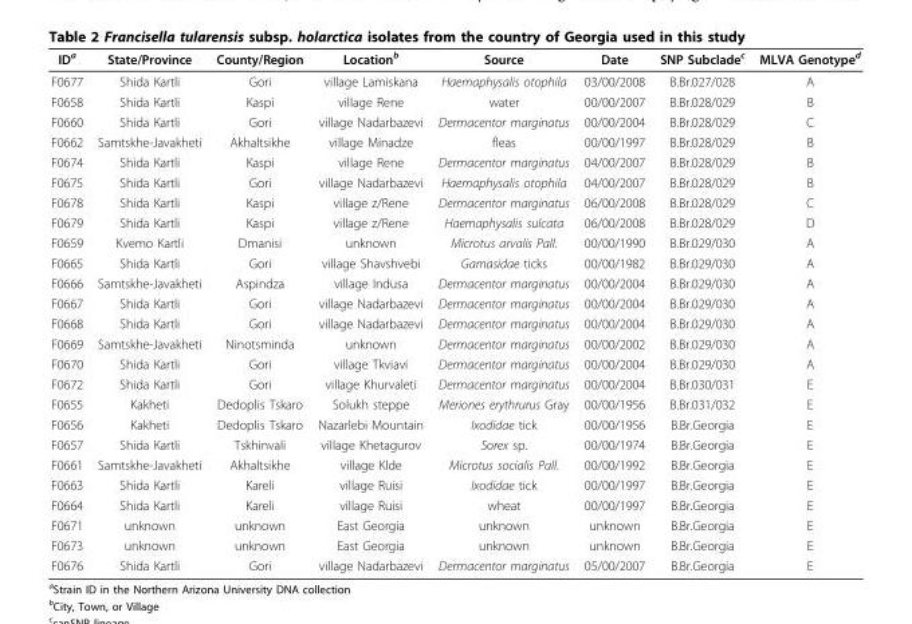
<table><thead><tr><td>ID<sup>a</sup></td><td>State/Province</td><td>County/Region</td><td>Location<sup>b</sup></td><td>Source</td><td>Date</td><td>SNP Subclade<sup>c</sup></td><td>MLVA Genotype<sup>d</sup></td></tr></thead><tbody><tr><td>F0677</td><td>Shida Kartli</td><td>Gori</td><td>village Lamiskana</td><td>Haemaphysalis otophila</td><td>03/00/2008</td><td>B.Br.027/028</td><td>A</td></tr><tr><td>F0658</td><td>Shida Kartli</td><td>Kaspi</td><td>village Rene</td><td>water</td><td>00/00/2007</td><td>B.Br.028/029</td><td>B</td></tr><tr><td>F0660</td><td>Shida Kartli</td><td>Gori</td><td>village Nadarbazevi</td><td>Dermacentor marginatus</td><td>00/00/2004</td><td>B.Br.028/029</td><td>C</td></tr><tr><td>F0662</td><td>Samtskhe-Javakheti</td><td>Akhaltsikhe</td><td>village Minadze</td><td>fleas</td><td>00/00/1997</td><td>B.Br.028/029</td><td>B</td></tr><tr><td>F0674</td><td>Shida Kartli</td><td>Kaspi</td><td>village Rene</td><td>Dermacentor marginatus</td><td>04/00/2007</td><td>B.Br.028/029</td><td>B</td></tr><tr><td>F0675</td><td>Shida Kartli</td><td>Gori</td><td>village Nadarbazevi</td><td>Haemaphysalis otophila</td><td>04/00/2007</td><td>B.Br.028/029</td><td>B</td></tr><tr><td>F0678</td><td>Shida Kartli</td><td>Kaspi</td><td>village z/Rene</td><td>Dermacentor marginatus</td><td>06/00/2008</td><td>B.Br.028/029</td><td>C</td></tr><tr><td>F0679</td><td>Shida Kartli</td><td>Kaspi</td><td>village z/Rene</td><td>Haemaphysalis sulcata</td><td>06/00/2008</td><td>B.Br.028/029</td><td>D</td></tr><tr><td>F0659</td><td>Kvemo Kartli</td><td>Dmanisi</td><td>unknown</td><td>Microtus arvalis Pall.</td><td>00/00/1990</td><td>B.Br.029/030</td><td>A</td></tr><tr><td>F0665</td><td>Shida Kartli</td><td>Gori</td><td>village Shavshvebi</td><td>Gamasidae ticks</td><td>00/00/1982</td><td>B.Br.029/030</td><td>A</td></tr><tr><td>F0666</td><td>Samtskhe-Javakheti</td><td>Aspindza</td><td>village Indusa</td><td>Dermacentor marginatus</td><td>00/00/2004</td><td>B.Br.029/030</td><td>A</td></tr><tr><td>F0667</td><td>Shida Kartli</td><td>Gori</td><td>village Nadarbazevi</td><td>Dermacentor marginatus</td><td>00/00/2004</td><td>B.Br.029/030</td><td>A</td></tr><tr><td>F0668</td><td>Shida Kartli</td><td>Gori</td><td>village Nadarbazevi</td><td>Dermacentor marginatus</td><td>00/00/2004</td><td>B.Br.029/030</td><td>A</td></tr><tr><td>F0669</td><td>Samtskhe-Javakheti</td><td>Ninotsminda</td><td>unknown</td><td>Dermacentor marginatus</td><td>00/00/2002</td><td>B.Br.029/030</td><td>A</td></tr><tr><td>F0670</td><td>Shida Kartli</td><td>Gori</td><td>village Tkviavi</td><td>Dermacentor marginatus</td><td>00/00/2004</td><td>B.Br.029/030</td><td>A</td></tr><tr><td>F0672</td><td>Shida Kartli</td><td>Gori</td><td>village Khurvaleti</td><td>Dermacentor marginatus</td><td>00/00/2004</td><td>B.Br.030/031</td><td>E</td></tr><tr><td>F0655</td><td>Kakheti</td><td>Dedoplis Tskaro</td><td>Solukh steppe</td><td>Meriones erythrurus Gray</td><td>00/00/1956</td><td>B.Br.031/032</td><td>E</td></tr><tr><td>F0656</td><td>Kakheti</td><td>Dedoplis Tskaro</td><td>Nazarlebi Mountain</td><td>Ixodidae tick</td><td>00/00/1956</td><td>B.Br.Georgia</td><td>E</td></tr><tr><td>F0657</td><td>Shida Kartli</td><td>Tskhinvali</td><td>village Khetagurov</td><td>Sorex sp.</td><td>00/00/1974</td><td>B.Br.Georgia</td><td>E</td></tr><tr><td>F0661</td><td>Samtskhe-Javakheti</td><td>Akhaltsikhe</td><td>village Klde</td><td>Microtus socialis Pall.</td><td>00/00/1992</td><td>B.Br.Georgia</td><td>E</td></tr><tr><td>F0663</td><td>Shida Kartli</td><td>Kareli</td><td>village Ruisi</td><td>Ixodidae tick</td><td>00/00/1997</td><td>B.Br.Georgia</td><td>E</td></tr><tr><td>F0664</td><td>Shida Kartli</td><td>Kareli</td><td>village Ruisi</td><td>wheat</td><td>00/00/1997</td><td>B.Br.Georgia</td><td>E</td></tr><tr><td>F0671</td><td>unknown</td><td>unknown</td><td>East Georgia</td><td>unknown</td><td>unknown</td><td>B.Br.Georgia</td><td>E</td></tr><tr><td>F0673</td><td>unknown</td><td>unknown</td><td>East Georgia</td><td>unknown</td><td>unknown</td><td>B.Br.Georgia</td><td>E</td></tr><tr><td>F0676</td><td>Shida Kartli</td><td>Gori</td><td>village Nadarbazevi</td><td>Dermacentor marginatus</td><td>05/00/2007</td><td>B.Br.Georgia</td><td>E</td></tr></tbody></table>